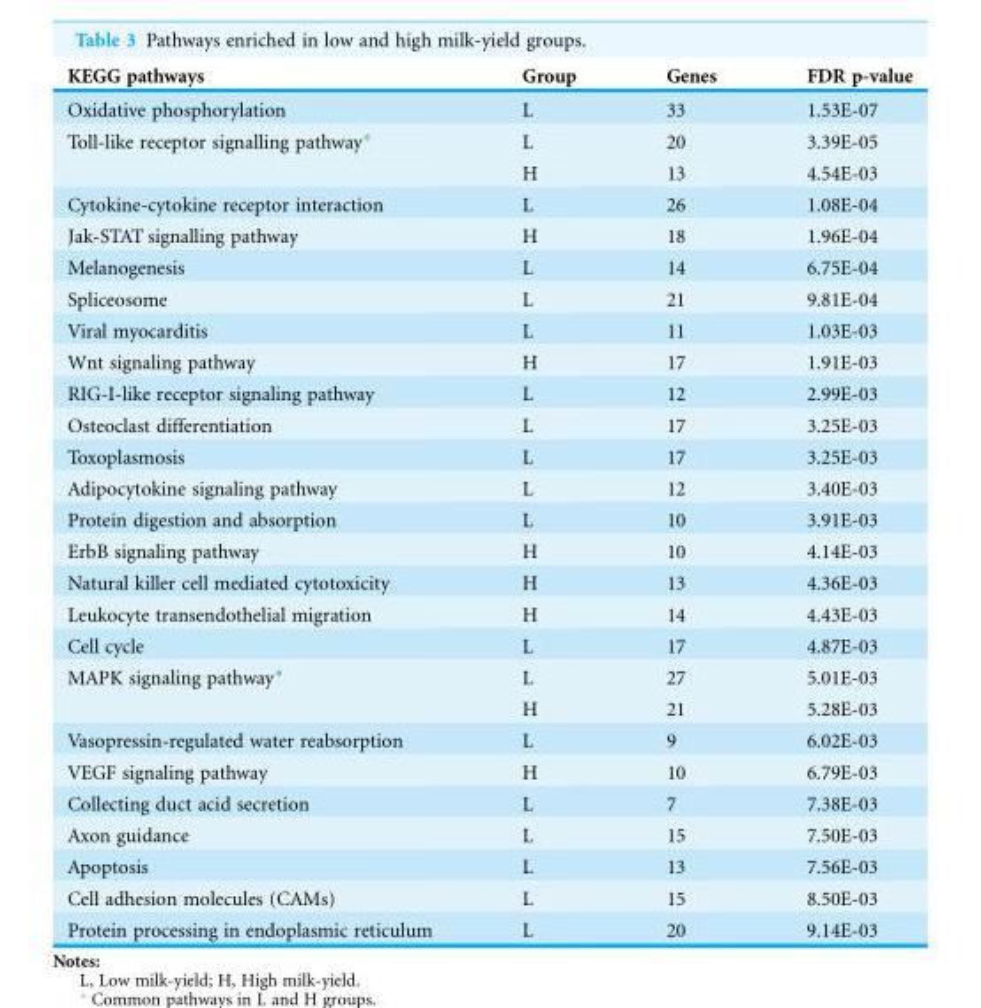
<table><thead><tr><td>KEGG pathways</td><td>Group</td><td>Genes</td><td>FDR p-value</td></tr></thead><tbody><tr><td>Oxidative phosphorylation</td><td>L</td><td>33</td><td>1.53E-07</td></tr><tr><td rowspan="2">Toll-like receptor signalling pathway*</td><td>L</td><td>20</td><td>3.39E-05</td></tr><tr><td>H</td><td>13</td><td>4.54E-03</td></tr><tr><td>Cytokine-cytokine receptor interaction</td><td>L</td><td>26</td><td>1.08E-04</td></tr><tr><td>Jak-STAT signalling pathway</td><td>H</td><td>18</td><td>1.96E-04</td></tr><tr><td>Melanogenesis</td><td>L</td><td>14</td><td>6.75E-04</td></tr><tr><td>Spliceosome</td><td>L</td><td>21</td><td>9.81E-04</td></tr><tr><td>Viral myocarditis</td><td>L</td><td>11</td><td>1.03E-03</td></tr><tr><td>Wnt signaling pathway</td><td>H</td><td>17</td><td>1.91E-03</td></tr><tr><td>RIG-I-like receptor signaling pathway</td><td>L</td><td>12</td><td>2.99E-03</td></tr><tr><td>Osteoclast differentiation</td><td>L</td><td>17</td><td>3.25E-03</td></tr><tr><td>Toxoplasmosis</td><td>L</td><td>17</td><td>3.25E-03</td></tr><tr><td>Adipocytokine signaling pathway</td><td>L</td><td>12</td><td>3.40E-03</td></tr><tr><td>Protein digestion and absorption</td><td>L</td><td>10</td><td>3.91E-03</td></tr><tr><td>ErbB signaling pathway</td><td>H</td><td>10</td><td>4.14E-03</td></tr><tr><td>Natural killer cell mediated cytotoxicity</td><td>H</td><td>13</td><td>4.36E-03</td></tr><tr><td>Leukocyte transendothelial migration</td><td>H</td><td>14</td><td>4.43E-03</td></tr><tr><td>Cell cycle</td><td>L</td><td>17</td><td>4.87E-03</td></tr><tr><td rowspan="2">MAPK signaling pathway*</td><td>L</td><td>27</td><td>5.01E-03</td></tr><tr><td>H</td><td>21</td><td>5.28E-03</td></tr><tr><td>Vasopressin-regulated water reabsorption</td><td>L</td><td>9</td><td>6.02E-03</td></tr><tr><td>VEGF signaling pathway</td><td>H</td><td>10</td><td>6.79E-03</td></tr><tr><td>Collecting duct acid secretion</td><td>L</td><td>7</td><td>7.38E-03</td></tr><tr><td>Axon guidance</td><td>L</td><td>15</td><td>7.50E-03</td></tr><tr><td>Apoptosis</td><td>L</td><td>13</td><td>7.56E-03</td></tr><tr><td>Cell adhesion molecules (CAMs)</td><td>L</td><td>15</td><td>8.50E-03</td></tr><tr><td>Protein processing in endoplasmic reticulum</td><td>L</td><td>20</td><td>9.14E-03</td></tr></tbody></table>